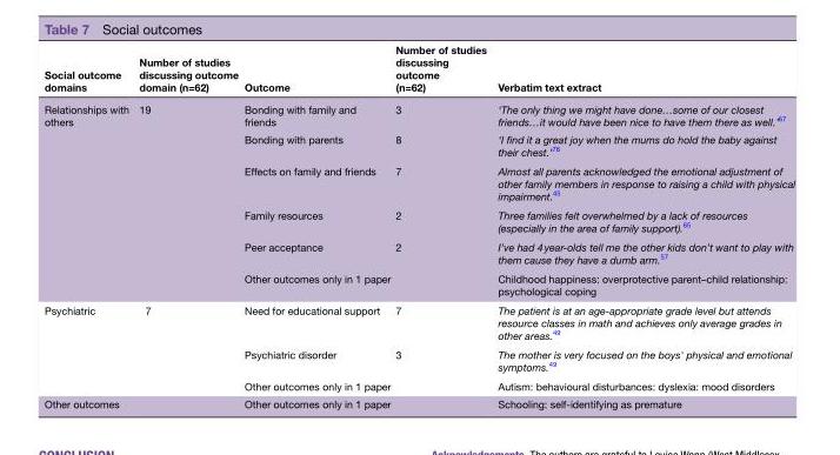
<table><thead><tr><td>Social outcome domains</td><td>Number of studies discussing outcome domain (n=62)</td><td>Outcome</td><td>Number of studies discussing outcome (n=62)</td><td>Verbatim text extract</td></tr></thead><tbody><tr><td rowspan="6">Relationships with others</td><td rowspan="6">19</td><td>Bonding with family and friends</td><td>3</td><td>‘The only thing we might have done…some of our closest friends…it would have been nice to have them there as well.’67</td></tr><tr><td>Bonding with parents</td><td>8</td><td>‘I find it a great joy when the mums do hold the baby against their chest.’76</td></tr><tr><td>Effects on family and friends</td><td>7</td><td>Almost all parents acknowledged the emotional adjustment of other family members in response to raising a child with physical impairment.45</td></tr><tr><td>Family resources</td><td>2</td><td>Three families felt overwhelmed by a lack of resources (especially in the area of family support).65</td></tr><tr><td>Peer acceptance</td><td>2</td><td>I’ve had 4 year-olds tell me the other kids don’t want to play with them cause they have a dumb arm.57</td></tr><tr><td colspan="2">Other outcomes only in 1 paper</td><td>Childhood happiness: overprotective parent–child relationship: psychological coping</td></tr><tr><td rowspan="3">Psychiatric</td><td rowspan="3">7</td><td>Need for educational support</td><td>7</td><td>The patient is at an age-appropriate grade level but attends resource classes in math and achieves only average grades in other areas.49</td></tr><tr><td>Psychiatric disorder</td><td>3</td><td>The mother is very focused on the boys&#x27; physical and emotional symptoms.49</td></tr><tr><td colspan="2">Other outcomes only in 1 paper</td><td>Autism: behavioural disturbances: dyslexia: mood disorders</td></tr><tr><td>Other outcomes</td><td></td><td colspan="2">Other outcomes only in 1 paper</td><td>Schooling: self-identifying as premature</td></tr></tbody></table>